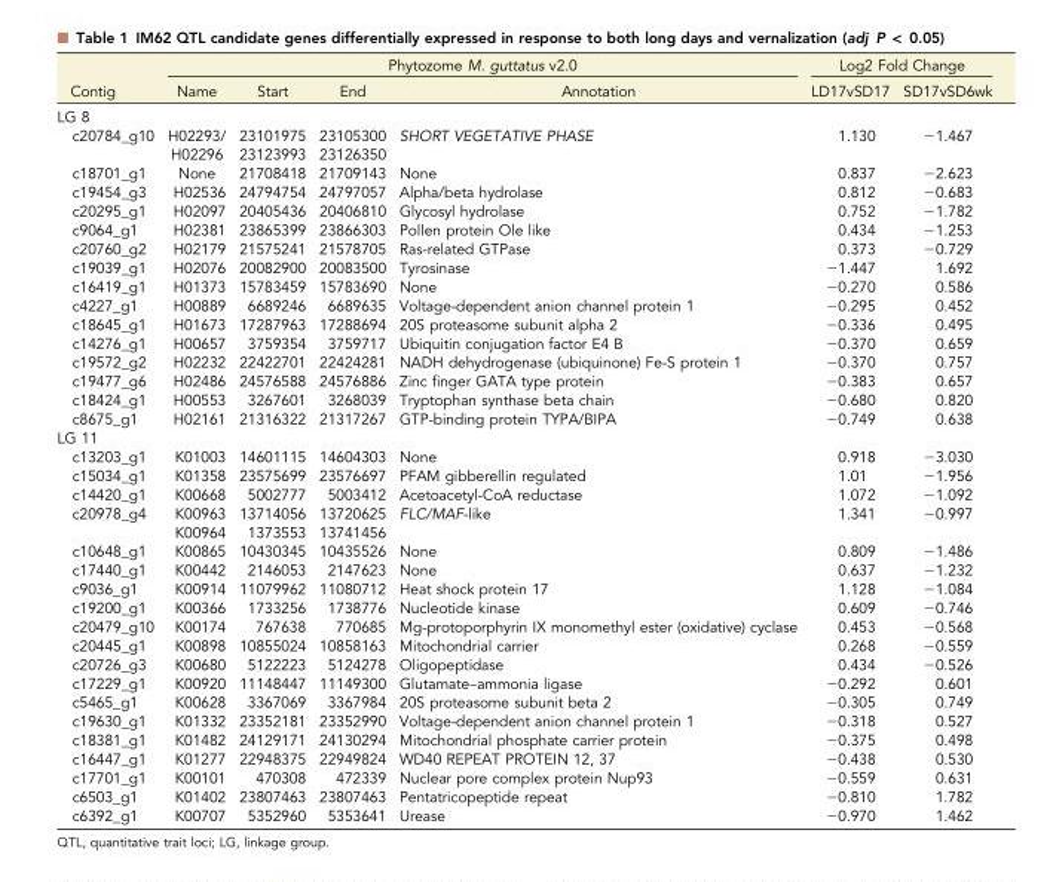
<table><thead><tr><td rowspan="2">Contig</td><td colspan="4">Phytozome M. guttatus v2.0</td><td colspan="2">Log2 Fold Change</td></tr><tr><td>Name</td><td>Start</td><td>End</td><td>Annotation</td><td>LD17vSD17</td><td>SD17vSD6wk</td></tr></thead><tbody><tr><td colspan="7">LG 8</td></tr><tr><td rowspan="2">c20784_g10</td><td>H02293/</td><td>23101975</td><td>23105300</td><td rowspan="2">SHORT VEGETATIVE PHASE</td><td>1.130</td><td>−1.467</td></tr><tr><td>H02296</td><td>23123993</td><td>23126350</td><td></td><td></td></tr><tr><td>c18701_g1</td><td>None</td><td>21708418</td><td>21709143</td><td>None</td><td>0.837</td><td>−2.623</td></tr><tr><td>c19454_g3</td><td>H02536</td><td>24794754</td><td>24797057</td><td>Alpha/beta hydrolase</td><td>0.812</td><td>−0.683</td></tr><tr><td>c20295_g1</td><td>H02097</td><td>20405436</td><td>20406810</td><td>Glycosyl hydrolase</td><td>0.752</td><td>−1.782</td></tr><tr><td>c9064_g1</td><td>H02381</td><td>23865399</td><td>23866303</td><td>Pollen protein Ole like</td><td>0.434</td><td>−1.253</td></tr><tr><td>c20760_g2</td><td>H02179</td><td>21575241</td><td>21578705</td><td>Ras-related GTPase</td><td>0.373</td><td>−0.729</td></tr><tr><td>c19039_g1</td><td>H02076</td><td>20082900</td><td>20083500</td><td>Tyrosinase</td><td>−1.447</td><td>1.692</td></tr><tr><td>c16419_g1</td><td>H01373</td><td>15783459</td><td>15783690</td><td>None</td><td>−0.270</td><td>0.586</td></tr><tr><td>c4227_g1</td><td>H00889</td><td>6689246</td><td>6689635</td><td>Voltage-dependent anion channel protein 1</td><td>−0.295</td><td>0.452</td></tr><tr><td>c18645_g1</td><td>H01673</td><td>17287963</td><td>17288694</td><td>20S proteasome subunit alpha 2</td><td>−0.336</td><td>0.495</td></tr><tr><td>c14276_g1</td><td>H00657</td><td>3759354</td><td>3759717</td><td>Ubiquitin conjugation factor E4 B</td><td>−0.370</td><td>0.659</td></tr><tr><td>c19572_g2</td><td>H02232</td><td>22422701</td><td>22424281</td><td>NADH dehydrogenase (ubiquinone) Fe-S protein 1</td><td>−0.370</td><td>0.757</td></tr><tr><td>c19477_g6</td><td>H02486</td><td>24576588</td><td>24576886</td><td>Zinc finger GATA type protein</td><td>−0.383</td><td>0.657</td></tr><tr><td>c18424_g1</td><td>H00553</td><td>3267601</td><td>3268039</td><td>Tryptophan synthase beta chain</td><td>−0.680</td><td>0.820</td></tr><tr><td>c8675_g1</td><td>H02161</td><td>21316322</td><td>21317267</td><td>GTP-binding protein TYPA/BIPA</td><td>−0.749</td><td>0.638</td></tr><tr><td colspan="7">LG 11</td></tr><tr><td>c13203_g1</td><td>K01003</td><td>14601115</td><td>14604303</td><td>None</td><td>0.918</td><td>−3.030</td></tr><tr><td>c15034_g1</td><td>K01358</td><td>23575699</td><td>23576697</td><td>PFAM gibberellin regulated</td><td>1.01</td><td>−1.956</td></tr><tr><td>c14420_g1</td><td>K00668</td><td>5002777</td><td>5003412</td><td>Acetoacetyl-CoA reductase</td><td>1.072</td><td>−1.092</td></tr><tr><td rowspan="2">c20978_g4</td><td>K00963</td><td>13714056</td><td>13720625</td><td rowspan="2">FLC/MAF-like</td><td>1.341</td><td>−0.997</td></tr><tr><td>K00964</td><td>1373553</td><td>13741456</td><td></td><td></td></tr><tr><td>c10648_g1</td><td>K00865</td><td>10430345</td><td>10435526</td><td>None</td><td>0.809</td><td>−1.486</td></tr><tr><td>c17440_g1</td><td>K00442</td><td>2146053</td><td>2147623</td><td>None</td><td>0.637</td><td>−1.232</td></tr><tr><td>c9036_g1</td><td>K00914</td><td>11079962</td><td>11080712</td><td>Heat shock protein 17</td><td>1.128</td><td>−1.084</td></tr><tr><td>c19200_g1</td><td>K00366</td><td>1733256</td><td>1738776</td><td>Nucleotide kinase</td><td>0.609</td><td>−0.746</td></tr><tr><td>c20479_g10</td><td>K00174</td><td>767638</td><td>770685</td><td>Mg-protoporphyrin IX monomethyl ester (oxidative) cyclase</td><td>0.453</td><td>−0.568</td></tr><tr><td>c20445_g1</td><td>K00898</td><td>10855024</td><td>10858163</td><td>Mitochondrial carrier</td><td>0.268</td><td>−0.559</td></tr><tr><td>c20726_g3</td><td>K00680</td><td>5122223</td><td>5124278</td><td>Oligopeptidase</td><td>0.434</td><td>−0.526</td></tr><tr><td>c17229_g1</td><td>K00920</td><td>11148447</td><td>11149300</td><td>Glutamate–ammonia ligase</td><td>−0.292</td><td>0.601</td></tr><tr><td>c5465_g1</td><td>K00628</td><td>3367069</td><td>3367984</td><td>20S proteasome subunit beta 2</td><td>−0.305</td><td>0.749</td></tr><tr><td>c19630_g1</td><td>K01332</td><td>23352181</td><td>23352990</td><td>Voltage-dependent anion channel protein 1</td><td>−0.318</td><td>0.527</td></tr><tr><td>c18381_g1</td><td>K01482</td><td>24129171</td><td>24130294</td><td>Mitochondrial phosphate carrier protein</td><td>−0.375</td><td>0.498</td></tr><tr><td>c16447_g1</td><td>K01277</td><td>22948375</td><td>22949824</td><td>WD40 REPEAT PROTEIN 12, 37</td><td>−0.438</td><td>0.530</td></tr><tr><td>c17701_g1</td><td>K00101</td><td>470308</td><td>472339</td><td>Nuclear pore complex protein Nup93</td><td>−0.559</td><td>0.631</td></tr><tr><td>c6503_g1</td><td>K01402</td><td>23807463</td><td>23807463</td><td>Pentatricopeptide repeat</td><td>−0.810</td><td>1.782</td></tr><tr><td>c6392_g1</td><td>K00707</td><td>5352960</td><td>5353641</td><td>Urease</td><td>−0.970</td><td>1.462</td></tr></tbody></table>